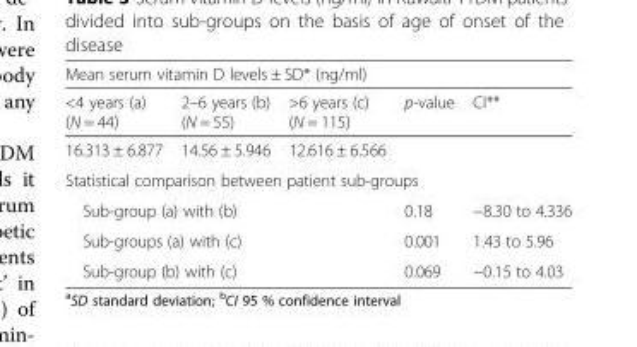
<table><thead><tr><td colspan="5">Mean serum vitamin D levels ± SD* (ng/ml)</td></tr><tr><td>&lt;4 years (a) (N = 44)</td><td>2–6 years (b) (N = 55)</td><td>&gt;6 years (c) (N = 115)</td><td>p-value</td><td>CI**</td></tr></thead><tbody><tr><td>16.313 ± 6.877</td><td>14.56 ± 5.946</td><td>12.616 ± 6.566</td><td></td><td></td></tr><tr><td colspan="5">Statistical comparison between patient sub-groups</td></tr><tr><td colspan="2">Sub-group (a) with (b)</td><td></td><td>0.18</td><td>−8.30 to 4.336</td></tr><tr><td colspan="2">Sub-groups (a) with (c)</td><td></td><td>0.001</td><td>1.43 to 5.96</td></tr><tr><td colspan="2">Sub-group (b) with (c)</td><td></td><td>0.069</td><td>−0.15 to 4.03</td></tr></tbody></table>